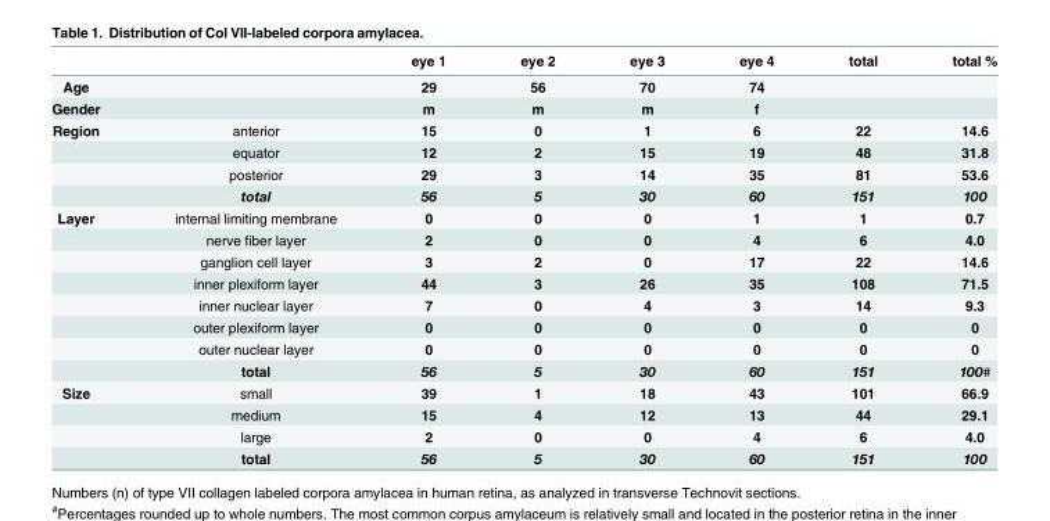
<table><thead><tr><td></td><td></td><td>eye 1</td><td>eye 2</td><td>eye 3</td><td>eye 4</td><td>total</td><td>total %</td></tr></thead><tbody><tr><td>Age</td><td></td><td>29</td><td>56</td><td>70</td><td>74</td><td></td><td></td></tr><tr><td>Gender</td><td></td><td>m</td><td>m</td><td>m</td><td>f</td><td></td><td></td></tr><tr><td rowspan="4">Region</td><td>anterior</td><td>15</td><td>0</td><td>1</td><td>6</td><td>22</td><td>14.6</td></tr><tr><td>equator</td><td>12</td><td>2</td><td>15</td><td>19</td><td>48</td><td>31.8</td></tr><tr><td>posterior</td><td>29</td><td>3</td><td>14</td><td>35</td><td>81</td><td>53.6</td></tr><tr><td>total</td><td>56</td><td>5</td><td>30</td><td>60</td><td>151</td><td>100</td></tr><tr><td rowspan="8">Layer</td><td>internal limiting membrane</td><td>0</td><td>0</td><td>0</td><td>1</td><td>1</td><td>0.7</td></tr><tr><td>nerve fiber layer</td><td>2</td><td>0</td><td>0</td><td>4</td><td>6</td><td>4.0</td></tr><tr><td>ganglion cell layer</td><td>3</td><td>2</td><td>0</td><td>17</td><td>22</td><td>14.6</td></tr><tr><td>inner plexiform layer</td><td>44</td><td>3</td><td>26</td><td>35</td><td>108</td><td>71.5</td></tr><tr><td>inner nuclear layer</td><td>7</td><td>0</td><td>4</td><td>3</td><td>14</td><td>9.3</td></tr><tr><td>outer plexiform layer</td><td>0</td><td>0</td><td>0</td><td>0</td><td>0</td><td>0</td></tr><tr><td>outer nuclear layer</td><td>0</td><td>0</td><td>0</td><td>0</td><td>0</td><td>0</td></tr><tr><td>total</td><td>56</td><td>5</td><td>30</td><td>60</td><td>151</td><td>100#</td></tr><tr><td rowspan="4">Size</td><td>small</td><td>39</td><td>1</td><td>18</td><td>43</td><td>101</td><td>66.9</td></tr><tr><td>medium</td><td>15</td><td>4</td><td>12</td><td>13</td><td>44</td><td>29.1</td></tr><tr><td>large</td><td>2</td><td>0</td><td>0</td><td>4</td><td>6</td><td>4.0</td></tr><tr><td>total</td><td>56</td><td>5</td><td>30</td><td>60</td><td>151</td><td>100</td></tr></tbody></table>